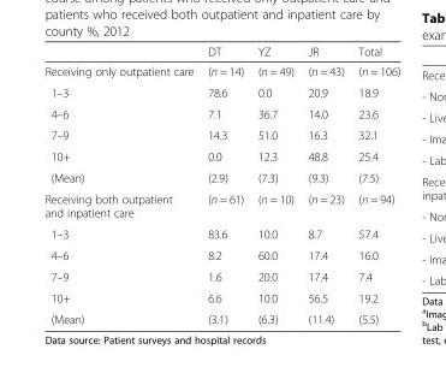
<table><thead><tr><td></td><td>DT</td><td>YZ</td><td>JR</td><td>Total</td></tr></thead><tbody><tr><td>Receiving only outpatient care</td><td>(n = 14)</td><td>(n = 49)</td><td>(n = 43)</td><td>(n = 106)</td></tr><tr><td>1–3</td><td>78.6</td><td>0.0</td><td>20.9</td><td>18.9</td></tr><tr><td>4–6</td><td>7.1</td><td>36.7</td><td>14.0</td><td>23.6</td></tr><tr><td>7–9</td><td>14.3</td><td>51.0</td><td>16.3</td><td>32.1</td></tr><tr><td>10+</td><td>0.0</td><td>12.3</td><td>48.8</td><td>25.4</td></tr><tr><td>(Mean)</td><td>(2.9)</td><td>(7.3)</td><td>(9.3)</td><td>(7.5)</td></tr><tr><td>Receiving both outpatient and inpatient care</td><td>(n = 61)</td><td>(n = 10)</td><td>(n = 23)</td><td>(n = 94)</td></tr><tr><td>1–3</td><td>83.6</td><td>10.0</td><td>8.7</td><td>57.4</td></tr><tr><td>4–6</td><td>8.2</td><td>60.0</td><td>17.4</td><td>16.0</td></tr><tr><td>7–9</td><td>1.6</td><td>20.0</td><td>17.4</td><td>7.4</td></tr><tr><td>10+</td><td>6.6</td><td>10.0</td><td>56.5</td><td>19.2</td></tr><tr><td>(Mean)</td><td>(3.1)</td><td>(6.3)</td><td>(11.4)</td><td>(5.5)</td></tr></tbody></table>